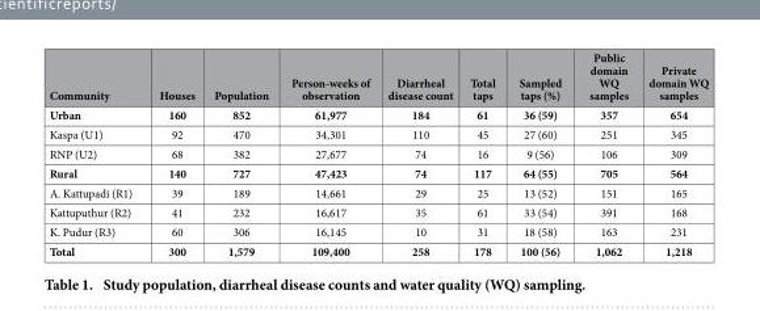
<table><thead><tr><td>Community</td><td>Houses</td><td>Population</td><td>Person-weeks of observation</td><td>Diarrheal disease count</td><td>Total taps</td><td>Sampled taps (%)</td><td>Public domain WQ samples</td><td>Private domain WQ samples</td></tr></thead><tbody><tr><td>Urban</td><td>160</td><td>852</td><td>61,977</td><td>184</td><td>61</td><td>36 (59)</td><td>357</td><td>654</td></tr><tr><td>Kaspa (U1)</td><td>92</td><td>470</td><td>34,301</td><td>110</td><td>45</td><td>27 (60)</td><td>251</td><td>345</td></tr><tr><td>RNP (U2)</td><td>68</td><td>382</td><td>27,677</td><td>74</td><td>16</td><td>9 (56)</td><td>106</td><td>309</td></tr><tr><td>Rural</td><td>140</td><td>727</td><td>47,423</td><td>74</td><td>117</td><td>64 (55)</td><td>705</td><td>564</td></tr><tr><td>A. Kattupadi (R1)</td><td>39</td><td>189</td><td>14,661</td><td>29</td><td>25</td><td>13 (52)</td><td>151</td><td>165</td></tr><tr><td>Kattuputhur (R2)</td><td>41</td><td>232</td><td>16,617</td><td>35</td><td>61</td><td>33 (54)</td><td>391</td><td>168</td></tr><tr><td>K. Pudur (R3)</td><td>60</td><td>306</td><td>16,145</td><td>10</td><td>31</td><td>18 (58)</td><td>163</td><td>231</td></tr><tr><td>Total</td><td>300</td><td>1,579</td><td>109,400</td><td>258</td><td>178</td><td>100 (56)</td><td>1,062</td><td>1,218</td></tr></tbody></table>